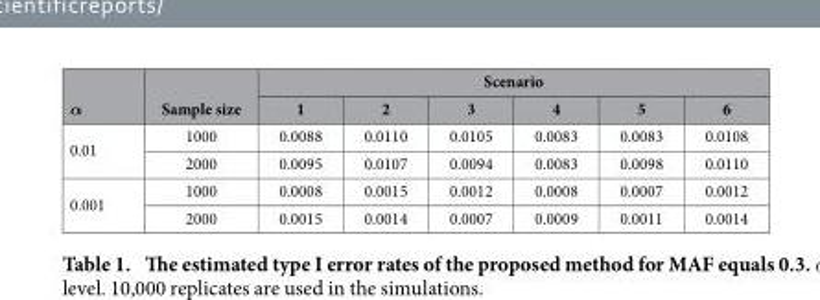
<table><thead><tr><td rowspan="2">α</td><td rowspan="2">Sample size</td><td colspan="6">Scenario</td></tr><tr><td>1</td><td>2</td><td>3</td><td>4</td><td>5</td><td>6</td></tr></thead><tbody><tr><td rowspan="2">0.01</td><td>1000</td><td>0.0088</td><td>0.0110</td><td>0.0105</td><td>0.0083</td><td>0.0083</td><td>0.0108</td></tr><tr><td>2000</td><td>0.0095</td><td>0.0107</td><td>0.0094</td><td>0.0083</td><td>0.0098</td><td>0.0110</td></tr><tr><td rowspan="2">0.001</td><td>1000</td><td>0.0008</td><td>0.0015</td><td>0.0012</td><td>0.0008</td><td>0.0007</td><td>0.0012</td></tr><tr><td>2000</td><td>0.0015</td><td>0.0014</td><td>0.0007</td><td>0.0009</td><td>0.0011</td><td>0.0014</td></tr></tbody></table>